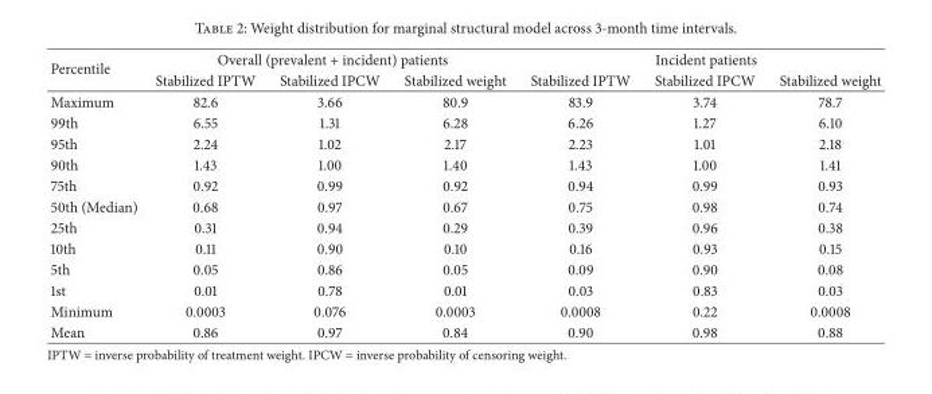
<table><thead><tr><td rowspan="2">Percentile</td><td colspan="3">Overall (prevalent + incident) patients</td><td colspan="3">Incident patients</td></tr><tr><td>Stabilized IPTW</td><td>Stabilized IPCW</td><td>Stabilized weight</td><td>Stabilized IPTW</td><td>Stabilized IPCW</td><td>Stabilized weight</td></tr></thead><tbody><tr><td>Maximum</td><td>82.6</td><td>3.66</td><td>80.9</td><td>83.9</td><td>3.74</td><td>78.7</td></tr><tr><td>99th</td><td>6.55</td><td>1.31</td><td>6.28</td><td>6.26</td><td>1.27</td><td>6.10</td></tr><tr><td>95th</td><td>2.24</td><td>1.02</td><td>2.17</td><td>2.23</td><td>1.01</td><td>2.18</td></tr><tr><td>90th</td><td>1.43</td><td>1.00</td><td>1.40</td><td>1.43</td><td>1.00</td><td>1.41</td></tr><tr><td>75th</td><td>0.92</td><td>0.99</td><td>0.92</td><td>0.94</td><td>0.99</td><td>0.93</td></tr><tr><td>50th (Median)</td><td>0.68</td><td>0.97</td><td>0.67</td><td>0.75</td><td>0.98</td><td>0.74</td></tr><tr><td>25th</td><td>0.31</td><td>0.94</td><td>0.29</td><td>0.39</td><td>0.96</td><td>0.38</td></tr><tr><td>10th</td><td>0.11</td><td>0.90</td><td>0.10</td><td>0.16</td><td>0.93</td><td>0.15</td></tr><tr><td>5th</td><td>0.05</td><td>0.86</td><td>0.05</td><td>0.09</td><td>0.90</td><td>0.08</td></tr><tr><td>1st</td><td>0.01</td><td>0.78</td><td>0.01</td><td>0.03</td><td>0.83</td><td>0.03</td></tr><tr><td>Minimum</td><td>0.0003</td><td>0.076</td><td>0.0003</td><td>0.0008</td><td>0.22</td><td>0.0008</td></tr><tr><td>Mean</td><td>0.86</td><td>0.97</td><td>0.84</td><td>0.90</td><td>0.98</td><td>0.88</td></tr></tbody></table>